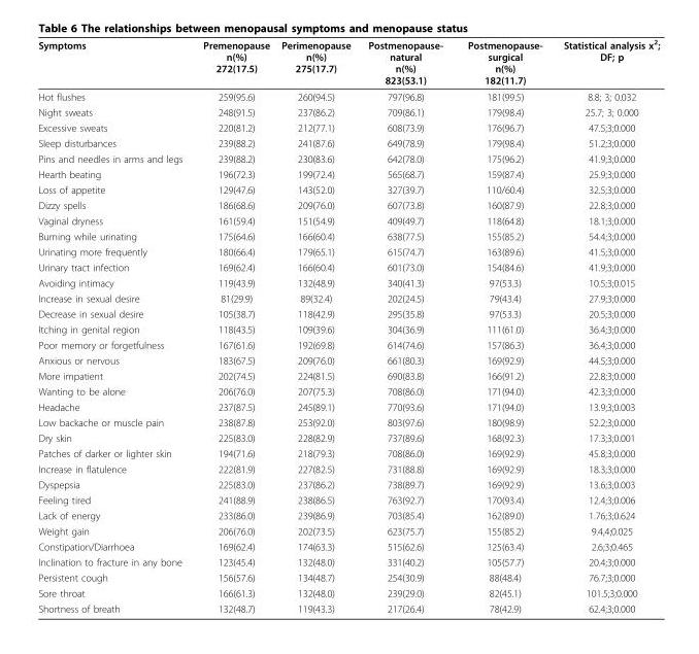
<table><thead><tr><td>Symptoms</td><td>Premenopause n(%) 272(17.5)</td><td>Perimenopause n(%) 275(17.7)</td><td>Postmenopause- natural n(%) 823(53.1)</td><td>Postmenopause- surgical n(%) 182(11.7)</td><td>Statistical analysis x<sup>2</sup>; DF; p</td></tr></thead><tbody><tr><td>Hot flushes</td><td>259(95.6)</td><td>260(94.5)</td><td>797(96.8)</td><td>181(99.5)</td><td>8.8; 3; 0.032</td></tr><tr><td>Night sweats</td><td>248(91.5)</td><td>237(86.2)</td><td>709(86.1)</td><td>179(98.4)</td><td>25.7; 3; 0.000</td></tr><tr><td>Excessive sweats</td><td>220(81.2)</td><td>212(77.1)</td><td>608(73.9)</td><td>176(96.7)</td><td>47.5;3;0.000</td></tr><tr><td>Sleep disturbances</td><td>239(88.2)</td><td>241(87.6)</td><td>649(78.9)</td><td>179(98.4)</td><td>51.2;3;0.000</td></tr><tr><td>Pins and needles in arms and legs</td><td>239(88.2)</td><td>230(83.6)</td><td>642(78.0)</td><td>175(96.2)</td><td>41.9;3;0.000</td></tr><tr><td>Hearth beating</td><td>196(72.3)</td><td>199(72.4)</td><td>565(68.7)</td><td>159(87.4)</td><td>25.9;3;0.000</td></tr><tr><td>Loss of appetite</td><td>129(47.6)</td><td>143(52.0)</td><td>327(39.7)</td><td>110/60.4)</td><td>32.5;3;0.000</td></tr><tr><td>Dizzy spells</td><td>186(68.6)</td><td>209(76.0)</td><td>607(73.8)</td><td>160(87.9)</td><td>22.8;3;0.000</td></tr><tr><td>Vaginal dryness</td><td>161(59.4)</td><td>151(54.9)</td><td>409(49.7)</td><td>118(64.8)</td><td>18.1;3;0.000</td></tr><tr><td>Burning while urinating</td><td>175(64.6)</td><td>166(60.4)</td><td>638(77.5)</td><td>155(85.2)</td><td>54.4;3;0.000</td></tr><tr><td>Urinating more frequently</td><td>180(66.4)</td><td>179(65.1)</td><td>615(74.7)</td><td>163(89.6)</td><td>41.5;3;0.000</td></tr><tr><td>Urinary tract infection</td><td>169(62.4)</td><td>166(60.4)</td><td>601(73.0)</td><td>154(84.6)</td><td>41.9;3;0.000</td></tr><tr><td>Avoiding intimacy</td><td>119(43.9)</td><td>132(48.9)</td><td>340(41.3)</td><td>97(53.3)</td><td>10.5;3;0.015</td></tr><tr><td>Increase in sexual desire</td><td>81(29.9)</td><td>89(32.4)</td><td>202(24.5)</td><td>79(43.4)</td><td>27.9;3;0.000</td></tr><tr><td>Decrease in sexual desire</td><td>105(38.7)</td><td>118(42.9)</td><td>295(35.8)</td><td>97(53.3)</td><td>20.5;3;0.000</td></tr><tr><td>Itching in genital region</td><td>118(43.5)</td><td>109(39.6)</td><td>304(36.9)</td><td>111(61.0)</td><td>36.4;3;0.000</td></tr><tr><td>Poor memory or forgetfulness</td><td>167(61.6)</td><td>192(69.8)</td><td>614(74.6)</td><td>157(86.3)</td><td>36.4;3;0.000</td></tr><tr><td>Anxious or nervous</td><td>183(67.5)</td><td>209(76.0)</td><td>661(80.3)</td><td>169(92.9)</td><td>44.5;3;0.000</td></tr><tr><td>More impatient</td><td>202(74.5)</td><td>224(81.5)</td><td>690(83.8)</td><td>166(91.2)</td><td>22.8;3;0.000</td></tr><tr><td>Wanting to be alone</td><td>206(76.0)</td><td>207(75.3)</td><td>708(86.0)</td><td>171(94.0)</td><td>42.3;3;0.000</td></tr><tr><td>Headache</td><td>237(87.5)</td><td>245(89.1)</td><td>770(93.6)</td><td>171(94.0)</td><td>13.9;3;0.003</td></tr><tr><td>Low backache or muscle pain</td><td>238(87.8)</td><td>253(92.0)</td><td>803(97.6)</td><td>180(98.9)</td><td>52.2;3;0.000</td></tr><tr><td>Dry skin</td><td>225(83.0)</td><td>228(82.9)</td><td>737(89.6)</td><td>168(92.3)</td><td>17.3;3;0.001</td></tr><tr><td>Patches of darker or lighter skin</td><td>194(71.6)</td><td>218(79.3)</td><td>708(86.0)</td><td>169(92.9)</td><td>45.8;3;0.000</td></tr><tr><td>Increase in flatulence</td><td>222(81.9)</td><td>227(82.5)</td><td>731(88.8)</td><td>169(92.9)</td><td>18.3;3;0.000</td></tr><tr><td>Dyspepsia</td><td>225(83.0)</td><td>237(86.2)</td><td>738(89.7)</td><td>169(92.9)</td><td>13.6;3;0.003</td></tr><tr><td>Feeling tired</td><td>241(88.9)</td><td>238(86.5)</td><td>763(92.7)</td><td>170(93.4)</td><td>12.4;3;0.006</td></tr><tr><td>Lack of energy</td><td>233(86.0)</td><td>239(86.9)</td><td>703(85.4)</td><td>162(89.0)</td><td>1.76;3;0.624</td></tr><tr><td>Weight gain</td><td>206(76.0)</td><td>202(73.5)</td><td>623(75.7)</td><td>155(85.2)</td><td>9.4,4;0.025</td></tr><tr><td>Constipation/Diarrhoea</td><td>169(62.4)</td><td>174(63.3)</td><td>515(62.6)</td><td>125(63.4)</td><td>2.6;3;0.465</td></tr><tr><td>Inclination to fracture in any bone</td><td>123(45.4)</td><td>132(48.0)</td><td>331(40.2)</td><td>105(57.7)</td><td>20.4;3;0.000</td></tr><tr><td>Persistent cough</td><td>156(57.6)</td><td>134(48.7)</td><td>254(30.9)</td><td>88(48.4)</td><td>76.7;3;0.000</td></tr><tr><td>Sore throat</td><td>166(61.3)</td><td>132(48.0)</td><td>239(29.0)</td><td>82(45.1)</td><td>101.5;3;0.000</td></tr><tr><td>Shortness of breath</td><td>132(48.7)</td><td>119(43.3)</td><td>217(26.4)</td><td>78(42.9)</td><td>62.4;3;0.000</td></tr></tbody></table>